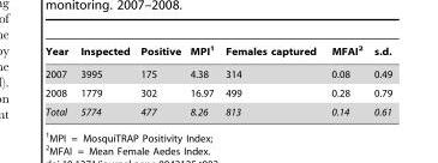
<table><thead><tr><td>Year</td><td>Inspected</td><td>Positive</td><td>MPI<sup>1</sup></td><td>Females captured</td><td>MFAI<sup>2</sup></td><td>s.d.</td></tr></thead><tbody><tr><td>2007</td><td>3995</td><td>175</td><td>4.38</td><td>314</td><td>0.08</td><td>0.49</td></tr><tr><td>2008</td><td>1779</td><td>302</td><td>16.97</td><td>499</td><td>0.28</td><td>0.79</td></tr><tr><td>Total</td><td>5774</td><td>477</td><td>8.26</td><td>813</td><td>0.14</td><td>0.61</td></tr></tbody></table>